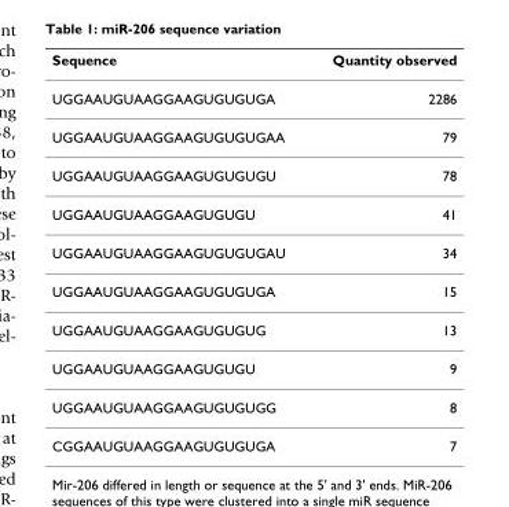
<table><thead><tr><td>Sequence</td><td>Quantity observed</td></tr></thead><tbody><tr><td>UGGAAUGUAAGGAAGUGUGUGA</td><td>2286</td></tr><tr><td>UGGAAUGUAAGGAAGUGUGUGAA</td><td>79</td></tr><tr><td>UGGAAUGUAAGGAAGUGUGUGU</td><td>78</td></tr><tr><td>UGGAAUGUAAGGAAGUGUGU</td><td>41</td></tr><tr><td>UGGAAUGUAAGGAAGUGUGUGAU</td><td>34</td></tr><tr><td>UGGAAUGUAAGGAAGUGUGUGA</td><td>15</td></tr><tr><td>UGGAAUGUAAGGAAGUGUGUG</td><td>13</td></tr><tr><td>UGGAAUGUAAGGAAGUGUGU</td><td>9</td></tr><tr><td>UGGAAUGUAAGGAAGUGUGUGG</td><td>8</td></tr><tr><td>CGGAAUGUAAGGAAGUGUGUGA</td><td>7</td></tr></tbody></table>